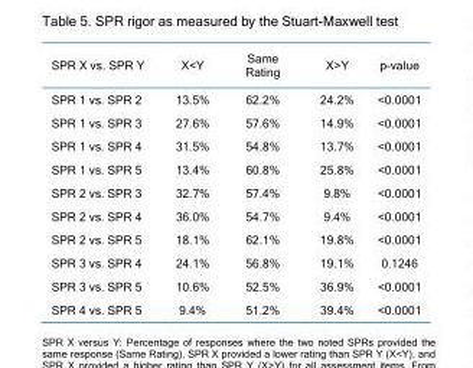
<table><thead><tr><td>SPR X vs. SPR Y</td><td>X&lt;Y</td><td>Same Rating</td><td>X&gt;Y</td><td>p-value</td></tr></thead><tbody><tr><td>SPR 1 vs. SPR 2</td><td>13.5%</td><td>62.2%</td><td>24.2%</td><td>&lt;0.0001</td></tr><tr><td>SPR 1 vs. SPR 3</td><td>27.6%</td><td>57.6%</td><td>14.9%</td><td>&lt;0.0001</td></tr><tr><td>SPR 1 vs. SPR 4</td><td>31.5%</td><td>54.8%</td><td>13.7%</td><td>&lt;0.0001</td></tr><tr><td>SPR 1 vs. SPR 5</td><td>13.4%</td><td>60.8%</td><td>25.8%</td><td>&lt;0.0001</td></tr><tr><td>SPR 2 vs. SPR 3</td><td>32.7%</td><td>57.4%</td><td>9.8%</td><td>&lt;0.0001</td></tr><tr><td>SPR 2 vs. SPR 4</td><td>36.0%</td><td>54.7%</td><td>9.4%</td><td>&lt;0.0001</td></tr><tr><td>SPR 2 vs. SPR 5</td><td>18.1%</td><td>62.1%</td><td>19.8%</td><td>&lt;0.0001</td></tr><tr><td>SPR 3 vs. SPR 4</td><td>24.1%</td><td>56.8%</td><td>19.1%</td><td>0.1246</td></tr><tr><td>SPR 3 vs. SPR 5</td><td>10.6%</td><td>52.5%</td><td>36.9%</td><td>&lt;0.0001</td></tr><tr><td>SPR 4 vs. SPR 5</td><td>9.4%</td><td>51.2%</td><td>39.4%</td><td>&lt;0.0001</td></tr></tbody></table>